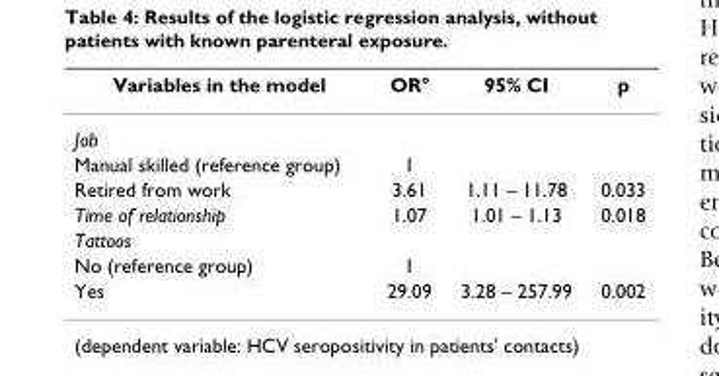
<table><thead><tr><td>Variables in the model</td><td>OR°</td><td>95% CI</td><td>p</td></tr></thead><tbody><tr><td colspan="4">Job</td></tr><tr><td>Manual skilled (reference group)</td><td>1</td><td></td><td></td></tr><tr><td>Retired from work</td><td>3.61</td><td>1.11 – 11.78</td><td>0.033</td></tr><tr><td>Time of relationship</td><td>1.07</td><td>1.01 – 1.13</td><td>0.018</td></tr><tr><td colspan="4">Tattoos</td></tr><tr><td>No (reference group)</td><td>1</td><td></td><td></td></tr><tr><td>Yes</td><td>29.09</td><td>3.28 – 257.99</td><td>0.002</td></tr></tbody></table>